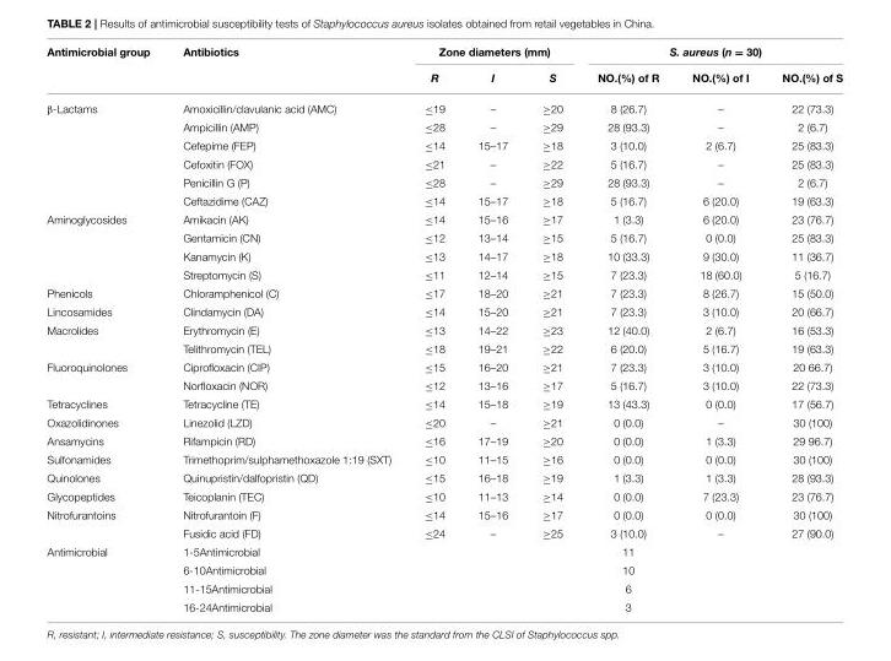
<table><thead><tr><td rowspan="2">Antimicrobial group</td><td rowspan="2">Antibiotics</td><td colspan="3">Zone diameters (mm)</td><td colspan="3">S. aureus (n = 30)</td></tr><tr><td>R</td><td>I</td><td>S</td><td>NO.(%) of R</td><td>NO.(%) of I</td><td>NO.(%) of S</td></tr></thead><tbody><tr><td rowspan="6">β-Lactams</td><td>Amoxicillin/clavulanic acid (AMC)</td><td>≤19</td><td>–</td><td>≥20</td><td>8 (26.7)</td><td>–</td><td>22 (73.3)</td></tr><tr><td>Ampicillin (AMP)</td><td>≤28</td><td>–</td><td>≥29</td><td>28 (93.3)</td><td>–</td><td>2 (6.7)</td></tr><tr><td>Cefepime (FEP)</td><td>≤14</td><td>15–17</td><td>≥18</td><td>3 (10.0)</td><td>2 (6.7)</td><td>25 (83.3)</td></tr><tr><td>Cefoxitin (FOX)</td><td>≤21</td><td>–</td><td>≥22</td><td>5 (16.7)</td><td>–</td><td>25 (83.3)</td></tr><tr><td>Penicillin G (P)</td><td>≤28</td><td>–</td><td>≥29</td><td>28 (93.3)</td><td>–</td><td>2 (6.7)</td></tr><tr><td>Ceftazidime (CAZ)</td><td>≤14</td><td>15–17</td><td>≥18</td><td>5 (16.7)</td><td>6 (20.0)</td><td>19 (63.3)</td></tr><tr><td rowspan="4">Aminoglycosides</td><td>Amikacin (AK)</td><td>≤14</td><td>15–16</td><td>≥17</td><td>1 (3.3)</td><td>6 (20.0)</td><td>23 (76.7)</td></tr><tr><td>Gentamicin (CN)</td><td>≤12</td><td>13–14</td><td>≥15</td><td>5 (16.7)</td><td>0 (0.0)</td><td>25 (83.3)</td></tr><tr><td>Kanamycin (K)</td><td>≤13</td><td>14–17</td><td>≥18</td><td>10 (33.3)</td><td>9 (30.0)</td><td>11 (36.7)</td></tr><tr><td>Streptomycin (S)</td><td>≤11</td><td>12–14</td><td>≥15</td><td>7 (23.3)</td><td>18 (60.0)</td><td>5 (16.7)</td></tr><tr><td>Phenicols</td><td>Chloramphenicol (C)</td><td>≤17</td><td>18–20</td><td>≥21</td><td>7 (23.3)</td><td>8 (26.7)</td><td>15 (50.0)</td></tr><tr><td>Lincosamides</td><td>Clindamycin (DA)</td><td>≤14</td><td>15–20</td><td>≥21</td><td>7 (23.3)</td><td>3 (10.0)</td><td>20 (66.7)</td></tr><tr><td rowspan="2">Macrolides</td><td>Erythromycin (E)</td><td>≤13</td><td>14–22</td><td>≥23</td><td>12 (40.0)</td><td>2 (6.7)</td><td>16 (53.3)</td></tr><tr><td>Telithromycin (TEL)</td><td>≤18</td><td>19–21</td><td>≥22</td><td>6 (20.0)</td><td>5 (16.7)</td><td>19 (63.3)</td></tr><tr><td rowspan="2">Fluoroquinolones</td><td>Ciprofloxacin (CIP)</td><td>≤15</td><td>16–20</td><td>≥21</td><td>7 (23.3)</td><td>3 (10.0)</td><td>20 66.7)</td></tr><tr><td>Norfloxacin (NOR)</td><td>≤12</td><td>13–16</td><td>≥17</td><td>5 (16.7)</td><td>3 (10.0)</td><td>22 (73.3)</td></tr><tr><td>Tetracyclines</td><td>Tetracycline (TE)</td><td>≤14</td><td>15–18</td><td>≥19</td><td>13 (43.3)</td><td>0 (0.0)</td><td>17 (56.7)</td></tr><tr><td>Oxazolidinones</td><td>Linezolid (LZD)</td><td>≤20</td><td>–</td><td>≥21</td><td>0 (0.0)</td><td>–</td><td>30 (100)</td></tr><tr><td>Ansamycins</td><td>Rifampicin (RD)</td><td>≤16</td><td>17–19</td><td>≥20</td><td>0 (0.0)</td><td>1 (3.3)</td><td>29 96.7)</td></tr><tr><td>Sulfonamides</td><td>Trimethoprim/sulphamethoxazole 1:19 (SXT)</td><td>≤10</td><td>11–15</td><td>≥16</td><td>0 (0.0)</td><td>0 (0.0)</td><td>30 (100)</td></tr><tr><td>Quinolones</td><td>Quinupristin/dalfopristin (QD)</td><td>≤15</td><td>16–18</td><td>≥19</td><td>1 (3.3)</td><td>1 (3.3)</td><td>28 (93.3)</td></tr><tr><td>Glycopeptides</td><td>Teicoplanin (TEC)</td><td>≤10</td><td>11–13</td><td>≥14</td><td>0 (0.0)</td><td>7 (23.3)</td><td>23 (76.7)</td></tr><tr><td rowspan="2">Nitrofurantoins</td><td>Nitrofurantoin (F)</td><td>≤14</td><td>15–16</td><td>≥17</td><td>0 (0.0)</td><td>0 (0.0)</td><td>30 (100)</td></tr><tr><td>Fusidic acid (FD)</td><td>≤24</td><td>–</td><td>≥25</td><td>3 (10.0)</td><td>–</td><td>27 (90.0)</td></tr><tr><td rowspan="4">Antimicrobial</td><td>1-5Antimicrobial</td><td></td><td></td><td></td><td>11</td><td></td><td></td></tr><tr><td>6-10Antimicrobial</td><td></td><td></td><td></td><td>10</td><td></td><td></td></tr><tr><td>11-15Antimicrobial</td><td></td><td></td><td></td><td>6</td><td></td><td></td></tr><tr><td>16-24Antimicrobial</td><td></td><td></td><td></td><td>3</td><td></td><td></td></tr></tbody></table>